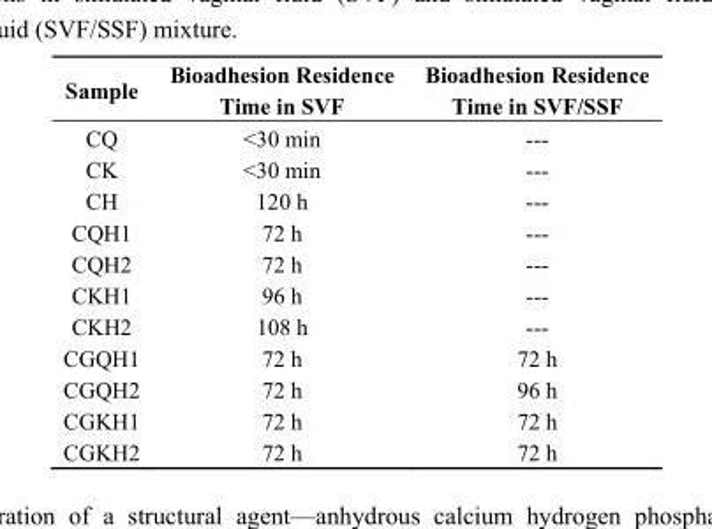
<table><thead><tr><td>Sample</td><td>Bioadhesion Residence Time in SVF</td><td>Bioadhesion Residence Time in SVF/SSF</td></tr></thead><tbody><tr><td>CQ</td><td>&lt;30 min</td><td>---</td></tr><tr><td>CK</td><td>&lt;30 min</td><td>---</td></tr><tr><td>CH</td><td>120 h</td><td>---</td></tr><tr><td>CQH1</td><td>72 h</td><td>---</td></tr><tr><td>CQH2</td><td>72 h</td><td>---</td></tr><tr><td>CKH1</td><td>96 h</td><td>---</td></tr><tr><td>CKH2</td><td>108 h</td><td>---</td></tr><tr><td>CGQH1</td><td>72 h</td><td>72 h</td></tr><tr><td>CGQH2</td><td>72 h</td><td>96 h</td></tr><tr><td>CGKH1</td><td>72 h</td><td>72 h</td></tr><tr><td>CGKH2</td><td>72 h</td><td>72 h</td></tr></tbody></table>